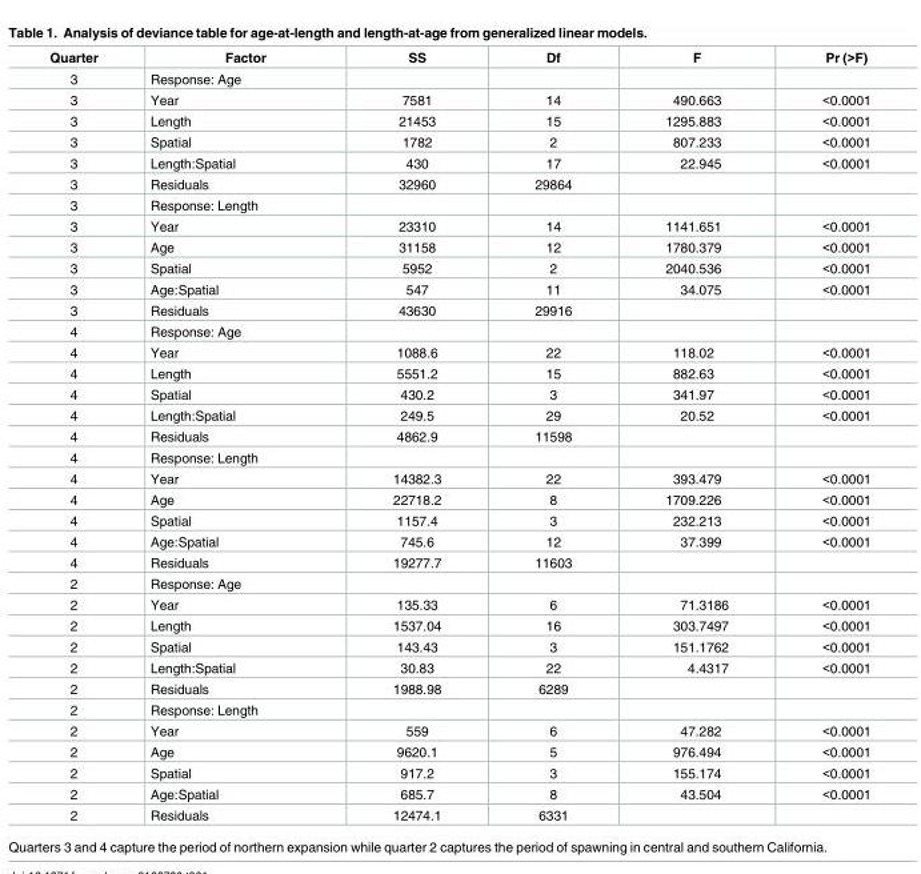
<table><thead><tr><td>Quarter</td><td>Factor</td><td>SS</td><td>Df</td><td>F</td><td>Pr (&gt;F)</td></tr></thead><tbody><tr><td>3</td><td>Response: Age</td><td></td><td></td><td></td><td></td></tr><tr><td>3</td><td>Year</td><td>7581</td><td>14</td><td>490.663</td><td>&lt;0.0001</td></tr><tr><td>3</td><td>Length</td><td>21453</td><td>15</td><td>1295.883</td><td>&lt;0.0001</td></tr><tr><td>3</td><td>Spatial</td><td>1782</td><td>2</td><td>807.233</td><td>&lt;0.0001</td></tr><tr><td>3</td><td>Length:Spatial</td><td>430</td><td>17</td><td>22.945</td><td>&lt;0.0001</td></tr><tr><td>3</td><td>Residuals</td><td>32960</td><td>29864</td><td></td><td></td></tr><tr><td>3</td><td>Response: Length</td><td></td><td></td><td></td><td></td></tr><tr><td>3</td><td>Year</td><td>23310</td><td>14</td><td>1141.651</td><td>&lt;0.0001</td></tr><tr><td>3</td><td>Age</td><td>31158</td><td>12</td><td>1780.379</td><td>&lt;0.0001</td></tr><tr><td>3</td><td>Spatial</td><td>5952</td><td>2</td><td>2040.536</td><td>&lt;0.0001</td></tr><tr><td>3</td><td>Age:Spatial</td><td>547</td><td>11</td><td>34.075</td><td>&lt;0.0001</td></tr><tr><td>3</td><td>Residuals</td><td>43630</td><td>29916</td><td></td><td></td></tr><tr><td>4</td><td>Response: Age</td><td></td><td></td><td></td><td></td></tr><tr><td>4</td><td>Year</td><td>1088.6</td><td>22</td><td>118.02</td><td>&lt;0.0001</td></tr><tr><td>4</td><td>Length</td><td>5551.2</td><td>15</td><td>882.63</td><td>&lt;0.0001</td></tr><tr><td>4</td><td>Spatial</td><td>430.2</td><td>3</td><td>341.97</td><td>&lt;0.0001</td></tr><tr><td>4</td><td>Length:Spatial</td><td>249.5</td><td>29</td><td>20.52</td><td>&lt;0.0001</td></tr><tr><td>4</td><td>Residuals</td><td>4862.9</td><td>11598</td><td></td><td></td></tr><tr><td>4</td><td>Response: Length</td><td></td><td></td><td></td><td></td></tr><tr><td>4</td><td>Year</td><td>14382.3</td><td>22</td><td>393.479</td><td>&lt;0.0001</td></tr><tr><td>4</td><td>Age</td><td>22718.2</td><td>8</td><td>1709.226</td><td>&lt;0.0001</td></tr><tr><td>4</td><td>Spatial</td><td>1157.4</td><td>3</td><td>232.213</td><td>&lt;0.0001</td></tr><tr><td>4</td><td>Age:Spatial</td><td>745.6</td><td>12</td><td>37.399</td><td>&lt;0.0001</td></tr><tr><td>4</td><td>Residuals</td><td>19277.7</td><td>11603</td><td></td><td></td></tr><tr><td>2</td><td>Response: Age</td><td></td><td></td><td></td><td></td></tr><tr><td>2</td><td>Year</td><td>135.33</td><td>6</td><td>71.3186</td><td>&lt;0.0001</td></tr><tr><td>2</td><td>Length</td><td>1537.04</td><td>16</td><td>303.7497</td><td>&lt;0.0001</td></tr><tr><td>2</td><td>Spatial</td><td>143.43</td><td>3</td><td>151.1762</td><td>&lt;0.0001</td></tr><tr><td>2</td><td>Length:Spatial</td><td>30.83</td><td>22</td><td>4.4317</td><td>&lt;0.0001</td></tr><tr><td>2</td><td>Residuals</td><td>1988.98</td><td>6289</td><td></td><td></td></tr><tr><td>2</td><td>Response: Length</td><td></td><td></td><td></td><td></td></tr><tr><td>2</td><td>Year</td><td>559</td><td>6</td><td>47.282</td><td>&lt;0.0001</td></tr><tr><td>2</td><td>Age</td><td>9620.1</td><td>5</td><td>976.494</td><td>&lt;0.0001</td></tr><tr><td>2</td><td>Spatial</td><td>917.2</td><td>3</td><td>155.174</td><td>&lt;0.0001</td></tr><tr><td>2</td><td>Age:Spatial</td><td>685.7</td><td>8</td><td>43.504</td><td>&lt;0.0001</td></tr><tr><td>2</td><td>Residuals</td><td>12474.1</td><td>6331</td><td></td><td></td></tr></tbody></table>